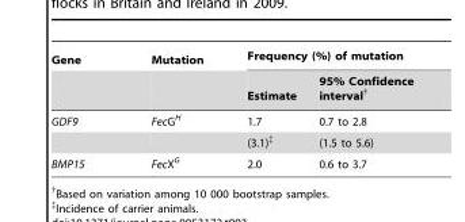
<table><thead><tr><td rowspan="2">Gene</td><td rowspan="2">Mutation</td><td colspan="2">Frequency (%) of mutation</td></tr><tr><td>Estimate</td><td>95% Confidence interval†</td></tr></thead><tbody><tr><td rowspan="2">GDF9</td><td>FecG<sup>H</sup></td><td>1.7</td><td>0.7 to 2.8</td></tr><tr><td></td><td>(3.1)‡</td><td>(1.5 to 5.6)</td></tr><tr><td>BMP15</td><td>FecX<sup>G</sup></td><td>2.0</td><td>0.6 to 3.7</td></tr></tbody></table>